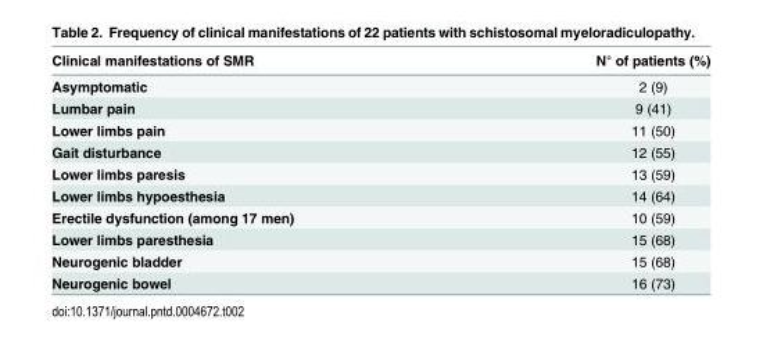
<table><thead><tr><td>Clinical manifestations of SMR</td><td>N° of patients (%)</td></tr></thead><tbody><tr><td>Asymptomatic</td><td>2 (9)</td></tr><tr><td>Lumbar pain</td><td>9 (41)</td></tr><tr><td>Lower limbs pain</td><td>11 (50)</td></tr><tr><td>Gait disturbance</td><td>12 (55)</td></tr><tr><td>Lower limbs paresis</td><td>13 (59)</td></tr><tr><td>Lower limbs hypoesthesia</td><td>14 (64)</td></tr><tr><td>Erectile dysfunction (among 17 men)</td><td>10 (59)</td></tr><tr><td>Lower limbs paresthesia</td><td>15 (68)</td></tr><tr><td>Neurogenic bladder</td><td>15 (68)</td></tr><tr><td>Neurogenic bowel</td><td>16 (73)</td></tr></tbody></table>